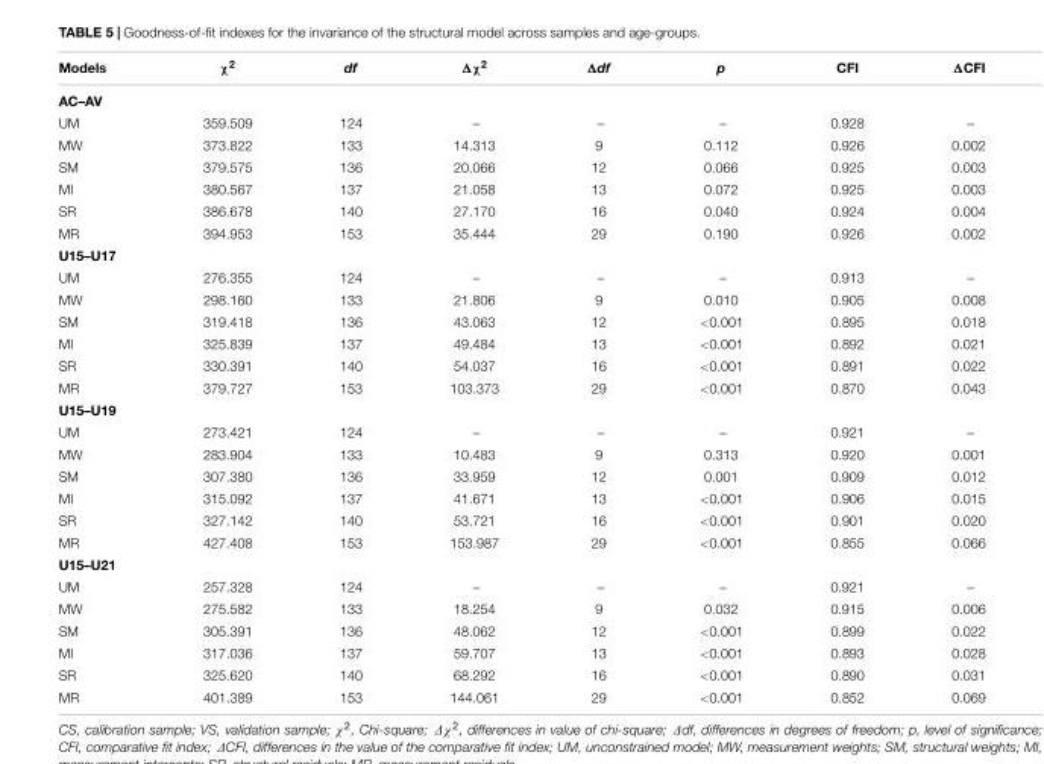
<table><thead><tr><td>Models</td><td>χ<sup>2</sup></td><td>df</td><td>Δχ<sup>2</sup></td><td>Δdf</td><td>p</td><td>CFI</td><td>ΔCFI</td></tr></thead><tbody><tr><td colspan="8">AC–AV</td></tr><tr><td>UM</td><td>359.509</td><td>124</td><td>–</td><td>–</td><td>–</td><td>0.928</td><td>–</td></tr><tr><td>MW</td><td>373.822</td><td>133</td><td>14.313</td><td>9</td><td>0.112</td><td>0.926</td><td>0.002</td></tr><tr><td>SM</td><td>379.575</td><td>136</td><td>20.066</td><td>12</td><td>0.066</td><td>0.925</td><td>0.003</td></tr><tr><td>MI</td><td>380.567</td><td>137</td><td>21.058</td><td>13</td><td>0.072</td><td>0.925</td><td>0.003</td></tr><tr><td>SR</td><td>386.678</td><td>140</td><td>27.170</td><td>16</td><td>0.040</td><td>0.924</td><td>0.004</td></tr><tr><td>MR</td><td>394.953</td><td>153</td><td>35.444</td><td>29</td><td>0.190</td><td>0.926</td><td>0.002</td></tr><tr><td colspan="8">U15–U17</td></tr><tr><td>UM</td><td>276.355</td><td>124</td><td>–</td><td>–</td><td>–</td><td>0.913</td><td>–</td></tr><tr><td>MW</td><td>298.160</td><td>133</td><td>21.806</td><td>9</td><td>0.010</td><td>0.905</td><td>0.008</td></tr><tr><td>SM</td><td>319.418</td><td>136</td><td>43.063</td><td>12</td><td>&lt;0.001</td><td>0.895</td><td>0.018</td></tr><tr><td>MI</td><td>325.839</td><td>137</td><td>49.484</td><td>13</td><td>&lt;0.001</td><td>0.892</td><td>0.021</td></tr><tr><td>SR</td><td>330.391</td><td>140</td><td>54.037</td><td>16</td><td>&lt;0.001</td><td>0.891</td><td>0.022</td></tr><tr><td>MR</td><td>379.727</td><td>153</td><td>103.373</td><td>29</td><td>&lt;0.001</td><td>0.870</td><td>0.043</td></tr><tr><td colspan="8">U15–U19</td></tr><tr><td>UM</td><td>273.421</td><td>124</td><td>–</td><td>–</td><td>–</td><td>0.921</td><td>–</td></tr><tr><td>MW</td><td>283.904</td><td>133</td><td>10.483</td><td>9</td><td>0.313</td><td>0.920</td><td>0.001</td></tr><tr><td>SM</td><td>307.380</td><td>136</td><td>33.959</td><td>12</td><td>0.001</td><td>0.909</td><td>0.012</td></tr><tr><td>MI</td><td>315.092</td><td>137</td><td>41.671</td><td>13</td><td>&lt;0.001</td><td>0.906</td><td>0.015</td></tr><tr><td>SR</td><td>327.142</td><td>140</td><td>53.721</td><td>16</td><td>&lt;0.001</td><td>0.901</td><td>0.020</td></tr><tr><td>MR</td><td>427.408</td><td>153</td><td>153.987</td><td>29</td><td>&lt;0.001</td><td>0.855</td><td>0.066</td></tr><tr><td colspan="8">U15–U21</td></tr><tr><td>UM</td><td>257.328</td><td>124</td><td>–</td><td>–</td><td>–</td><td>0.921</td><td>–</td></tr><tr><td>MW</td><td>275.582</td><td>133</td><td>18.254</td><td>9</td><td>0.032</td><td>0.915</td><td>0.006</td></tr><tr><td>SM</td><td>305.391</td><td>136</td><td>48.062</td><td>12</td><td>&lt;0.001</td><td>0.899</td><td>0.022</td></tr><tr><td>MI</td><td>317.036</td><td>137</td><td>59.707</td><td>13</td><td>&lt;0.001</td><td>0.893</td><td>0.028</td></tr><tr><td>SR</td><td>325.620</td><td>140</td><td>68.292</td><td>16</td><td>&lt;0.001</td><td>0.890</td><td>0.031</td></tr><tr><td>MR</td><td>401.389</td><td>153</td><td>144.061</td><td>29</td><td>&lt;0.001</td><td>0.852</td><td>0.069</td></tr></tbody></table>